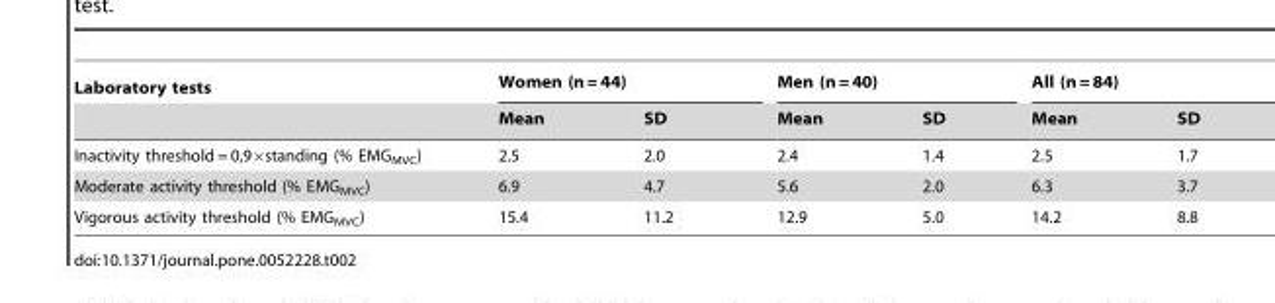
<table><thead><tr><td rowspan="2">Laboratory tests</td><td colspan="2">Women (n = 44)</td><td colspan="2">Men (n = 40)</td><td colspan="2">All (n = 84)</td></tr><tr><td>Mean</td><td>SD</td><td>Mean</td><td>SD</td><td>Mean</td><td>SD</td></tr></thead><tbody><tr><td>Inactivity threshold = 0,9×standing (% EMG<sub>MVC</sub>)</td><td>2.5</td><td>2.0</td><td>2.4</td><td>1.4</td><td>2.5</td><td>1.7</td></tr><tr><td>Moderate activity threshold (% EMG<sub>MVC</sub>)</td><td>6.9</td><td>4.7</td><td>5.6</td><td>2.0</td><td>6.3</td><td>3.7</td></tr><tr><td>Vigorous activity threshold (% EMG<sub>MVC</sub>)</td><td>15.4</td><td>11.2</td><td>12.9</td><td>5.0</td><td>14.2</td><td>8.8</td></tr></tbody></table>